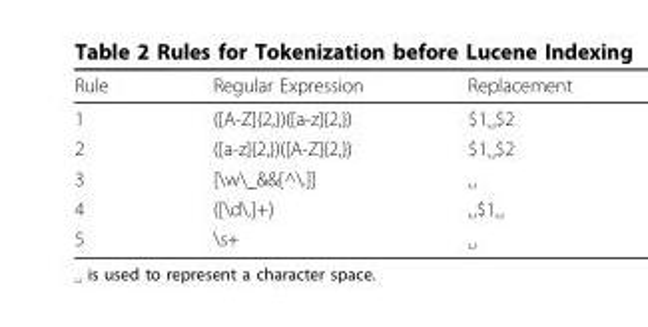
<table><thead><tr><td>Rule</td><td>Regular Expression</td><td>Replacement</td></tr></thead><tbody><tr><td>1</td><td>([A-Z]{2,})([a-z]{2,})</td><td>$1<sub>⌴</sub>$2</td></tr><tr><td>2</td><td>([a-z]{2,})([A-Z]{2,})</td><td>$1<sub>⌴</sub>$2</td></tr><tr><td>3</td><td>[\w\_&amp;&amp;[^\.]]</td><td><sub>⌴</sub></td></tr><tr><td>4</td><td>([\d\.]+)</td><td><sub>⌴</sub>$1<sub>⌴</sub></td></tr><tr><td>5</td><td>\s+</td><td><sub>⌴</sub></td></tr></tbody></table>